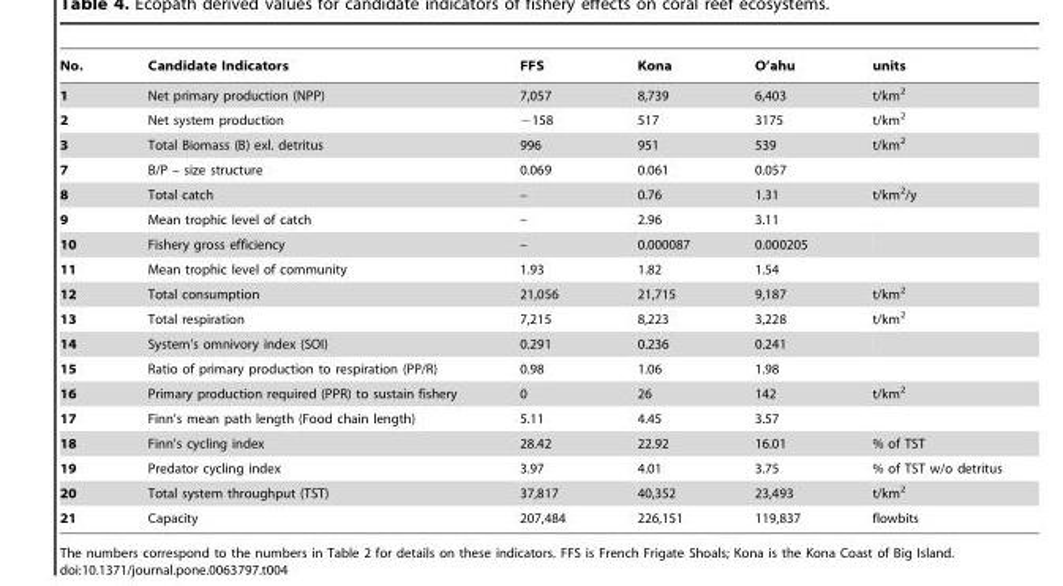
<table><thead><tr><td>No.</td><td>Candidate Indicators</td><td>FFS</td><td>Kona</td><td>O’ahu</td><td>units</td></tr></thead><tbody><tr><td>1</td><td>Net primary production (NPP)</td><td>7,057</td><td>8,739</td><td>6,403</td><td>t/km<sup>2</sup></td></tr><tr><td>2</td><td>Net system production</td><td>−158</td><td>517</td><td>3175</td><td>t/km<sup>2</sup></td></tr><tr><td>3</td><td>Total Biomass (B) exl. detritus</td><td>996</td><td>951</td><td>539</td><td>t/km<sup>2</sup></td></tr><tr><td>7</td><td>B/P – size structure</td><td>0.069</td><td>0.061</td><td>0.057</td><td></td></tr><tr><td>8</td><td>Total catch</td><td>–</td><td>0.76</td><td>1.31</td><td>t/km<sup>2</sup>/y</td></tr><tr><td>9</td><td>Mean trophic level of catch</td><td>–</td><td>2.96</td><td>3.11</td><td></td></tr><tr><td>10</td><td>Fishery gross efficiency</td><td>–</td><td>0.000087</td><td>0.000205</td><td></td></tr><tr><td>11</td><td>Mean trophic level of community</td><td>1.93</td><td>1.82</td><td>1.54</td><td></td></tr><tr><td>12</td><td>Total consumption</td><td>21,056</td><td>21,715</td><td>9,187</td><td>t/km<sup>2</sup></td></tr><tr><td>13</td><td>Total respiration</td><td>7,215</td><td>8,223</td><td>3,228</td><td>t/km<sup>2</sup></td></tr><tr><td>14</td><td>System’s omnivory index (SOI)</td><td>0.291</td><td>0.236</td><td>0.241</td><td></td></tr><tr><td>15</td><td>Ratio of primary production to respiration (PP/R)</td><td>0.98</td><td>1.06</td><td>1.98</td><td></td></tr><tr><td>16</td><td>Primary production required (PPR) to sustain fishery</td><td>0</td><td>26</td><td>142</td><td>t/km<sup>2</sup></td></tr><tr><td>17</td><td>Finn’s mean path length (Food chain length)</td><td>5.11</td><td>4.45</td><td>3.57</td><td></td></tr><tr><td>18</td><td>Finn’s cycling index</td><td>28.42</td><td>22.92</td><td>16.01</td><td>% of TST</td></tr><tr><td>19</td><td>Predator cycling index</td><td>3.97</td><td>4.01</td><td>3.75</td><td>% of TST w/o detritus</td></tr><tr><td>20</td><td>Total system throughput (TST)</td><td>37,817</td><td>40,352</td><td>23,493</td><td>t/km<sup>2</sup></td></tr><tr><td>21</td><td>Capacity</td><td>207,484</td><td>226,151</td><td>119,837</td><td>flowbits</td></tr></tbody></table>